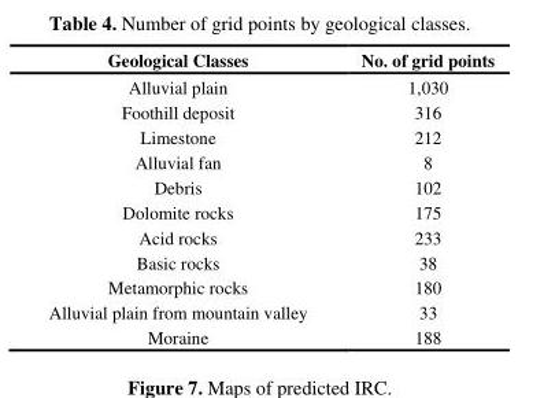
<table><thead><tr><td>Geological Classes</td><td>No. of grid points</td></tr></thead><tbody><tr><td>Alluvial plain</td><td>1,030</td></tr><tr><td>Foothill deposit</td><td>316</td></tr><tr><td>Limestone</td><td>212</td></tr><tr><td>Alluvial fan</td><td>8</td></tr><tr><td>Debris</td><td>102</td></tr><tr><td>Dolomite rocks</td><td>175</td></tr><tr><td>Acid rocks</td><td>233</td></tr><tr><td>Basic rocks</td><td>38</td></tr><tr><td>Metamorphic rocks</td><td>180</td></tr><tr><td>Alluvial plain from mountain valley</td><td>33</td></tr><tr><td>Moraine</td><td>188</td></tr></tbody></table>